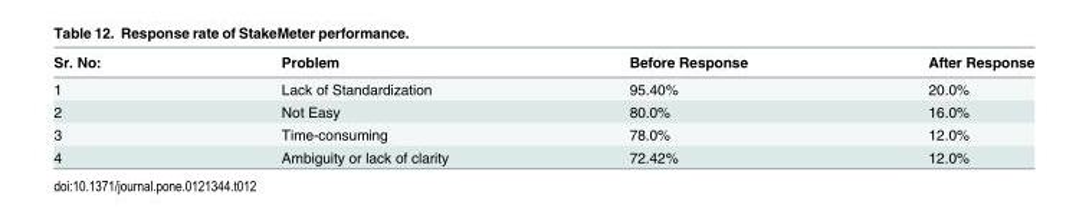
<table><thead><tr><td>Sr. No:</td><td>Problem</td><td>Before Response</td><td>After Response</td></tr></thead><tbody><tr><td>1</td><td>Lack of Standardization</td><td>95.40%</td><td>20.0%</td></tr><tr><td>2</td><td>Not Easy</td><td>80.0%</td><td>16.0%</td></tr><tr><td>3</td><td>Time-consuming</td><td>78.0%</td><td>12.0%</td></tr><tr><td>4</td><td>Ambiguity or lack of clarity</td><td>72.42%</td><td>12.0%</td></tr></tbody></table>